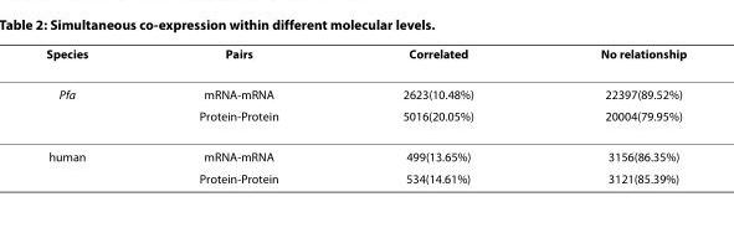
<table><thead><tr><td>Species</td><td>Pairs</td><td>Correlated</td><td>No relationship</td></tr></thead><tbody><tr><td rowspan="2">Pfa</td><td>mRNA-mRNA</td><td>2623(10.48%)</td><td>22397(89.52%)</td></tr><tr><td>Protein-Protein</td><td>5016(20.05%)</td><td>20004(79.95%)</td></tr><tr><td rowspan="2">human</td><td>mRNA-mRNA</td><td>499(13.65%)</td><td>3156(86.35%)</td></tr><tr><td>Protein-Protein</td><td>534(14.61%)</td><td>3121(85.39%)</td></tr></tbody></table>